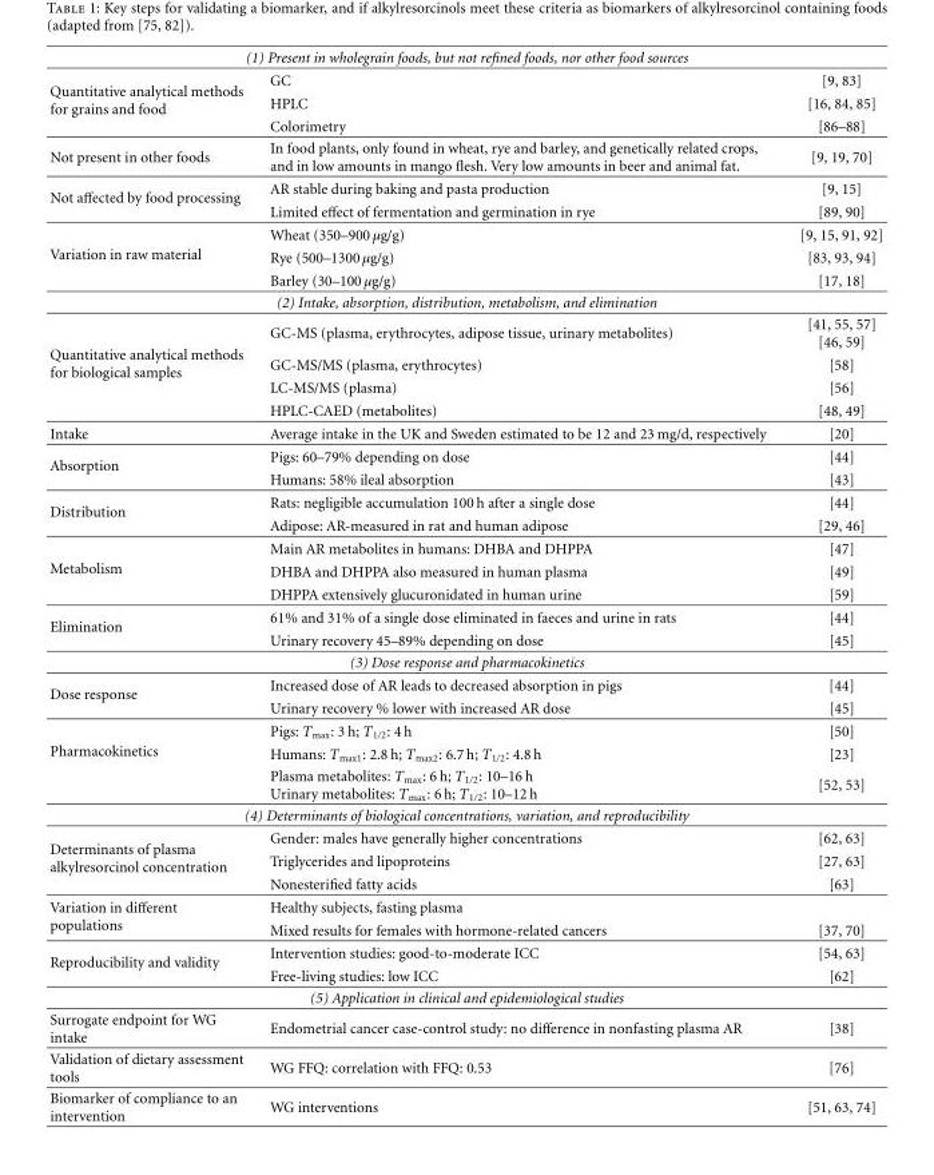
<table><tbody><tr><td colspan="3">(1) Present in wholegrain foods, but not refined foods, nor other food sources</td></tr><tr><td rowspan="3">Quantitative analytical methods for grains and food</td><td>GC</td><td>[9, 83]</td></tr><tr><td>HPLC</td><td>[16, 84, 85]</td></tr><tr><td>Colorimetry</td><td>[86–88]</td></tr><tr><td>Not present in other foods</td><td>In food plants, only found in wheat, rye and barley, and genetically related crops, and in low amounts in mango flesh. Very low amounts in beer and animal fat.</td><td>[9, 19, 70]</td></tr><tr><td rowspan="2">Not affected by food processing</td><td>AR stable during baking and pasta production</td><td>[9, 15]</td></tr><tr><td>Limited effect of fermentation and germination in rye</td><td>[89, 90]</td></tr><tr><td rowspan="3">Variation in raw material</td><td>Wheat (350–900 μg/g)</td><td>[9, 15, 91, 92]</td></tr><tr><td>Rye (500–1300 μg/g)</td><td>[83, 93, 94]</td></tr><tr><td>Barley (30–100 μg/g)</td><td>[17, 18]</td></tr><tr><td colspan="3">(2) Intake, absorption, distribution, metabolism, and elimination</td></tr><tr><td rowspan="4">Quantitative analytical methods for biological samples</td><td>GC-MS (plasma, erythrocytes, adipose tissue, urinary metabolites)</td><td>[41, 55, 57] [46, 59]</td></tr><tr><td>GC-MS/MS (plasma, erythrocytes)</td><td>[58]</td></tr><tr><td>LC-MS/MS (plasma)</td><td>[56]</td></tr><tr><td>HPLC-CAED (metabolites)</td><td>[48, 49]</td></tr><tr><td>Intake</td><td>Average intake in the UK and Sweden estimated to be 12 and 23 mg/d, respectively</td><td>[20]</td></tr><tr><td rowspan="2">Absorption</td><td>Pigs: 60–79% depending on dose</td><td>[44]</td></tr><tr><td>Humans: 58% ileal absorption</td><td>[43]</td></tr><tr><td rowspan="2">Distribution</td><td>Rats: negligible accumulation 100 h after a single dose</td><td>[44]</td></tr><tr><td>Adipose: AR-measured in rat and human adipose</td><td>[29, 46]</td></tr><tr><td rowspan="3">Metabolism</td><td>Main AR metabolites in humans: DHBA and DHPPA</td><td>[47]</td></tr><tr><td>DHBA and DHPPA also measured in human plasma</td><td>[49]</td></tr><tr><td>DHPPA extensively glucuronidated in human urine</td><td>[59]</td></tr><tr><td rowspan="2">Elimination</td><td>61% and 31% of a single dose eliminated in faeces and urine in rats</td><td>[44]</td></tr><tr><td>Urinary recovery 45–89% depending on dose</td><td>[45]</td></tr><tr><td colspan="3">(3) Dose response and pharmacokinetics</td></tr><tr><td rowspan="2">Dose response</td><td>Increased dose of AR leads to decreased absorption in pigs</td><td>[44]</td></tr><tr><td>Urinary recovery % lower with increased AR dose</td><td>[45]</td></tr><tr><td rowspan="3">Pharmacokinetics</td><td>Pigs: T<sub>max</sub>: 3 h; T<sub>1/2</sub>: 4 h</td><td>[50]</td></tr><tr><td>Humans: T<sub>max1</sub>: 2.8 h; T<sub>max2</sub>: 6.7 h; T<sub>1/2</sub>: 4.8 h</td><td>[23]</td></tr><tr><td>Plasma metabolites: T<sub>max</sub>: 6 h; T<sub>1/2</sub>: 10–16 h Urinary metabolites: T<sub>max</sub>: 6 h; T<sub>1/2</sub>: 10–12 h</td><td>[52, 53]</td></tr><tr><td colspan="3">(4) Determinants of biological concentrations, variation, and reproducibility</td></tr><tr><td rowspan="3">Determinants of plasma alkylresorcinol concentration</td><td>Gender: males have generally higher concentrations</td><td>[62, 63]</td></tr><tr><td>Triglycerides and lipoproteins</td><td>[27, 63]</td></tr><tr><td>Nonesterified fatty acids</td><td>[63]</td></tr><tr><td rowspan="2">Variation in different populations</td><td>Healthy subjects, fasting plasma</td><td></td></tr><tr><td>Mixed results for females with hormone-related cancers</td><td>[37, 70]</td></tr><tr><td rowspan="2">Reproducibility and validity</td><td>Intervention studies: good-to-moderate ICC</td><td>[54, 63]</td></tr><tr><td>Free-living studies: low ICC</td><td>[62]</td></tr><tr><td colspan="3">(5) Application in clinical and epidemiological studies</td></tr><tr><td>Surrogate endpoint for WG intake</td><td>Endometrial cancer case-control study: no difference in nonfasting plasma AR</td><td>[38]</td></tr><tr><td>Validation of dietary assessment tools</td><td>WG FFQ: correlation with FFQ: 0.53</td><td>[76]</td></tr><tr><td>Biomarker of compliance to an intervention</td><td>WG interventions</td><td>[51, 63, 74]</td></tr></tbody></table>